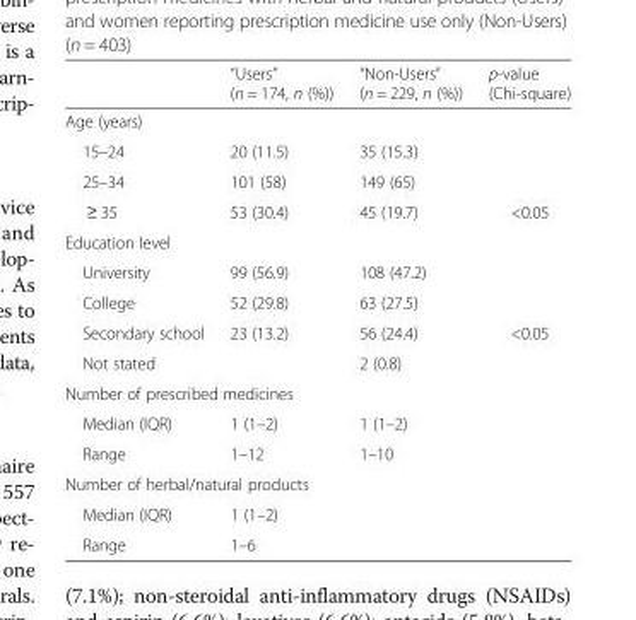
<table><thead><tr><td></td><td>“Users” (n = 174, n (%))</td><td>“Non-Users” (n = 229, n (%))</td><td>p-value (Chi-square)</td></tr></thead><tbody><tr><td colspan="4">Age (years)</td></tr><tr><td>15–24</td><td>20 (11.5)</td><td>35 (15.3)</td><td></td></tr><tr><td>25–34</td><td>101 (58)</td><td>149 (65)</td><td></td></tr><tr><td>≥ 35</td><td>53 (30.4)</td><td>45 (19.7)</td><td>&lt;0.05</td></tr><tr><td colspan="4">Education level</td></tr><tr><td>University</td><td>99 (56.9)</td><td>108 (47.2)</td><td></td></tr><tr><td>College</td><td>52 (29.8)</td><td>63 (27.5)</td><td></td></tr><tr><td>Secondary school</td><td>23 (13.2)</td><td>56 (24.4)</td><td>&lt;0.05</td></tr><tr><td>Not stated</td><td></td><td>2 (0.8)</td><td></td></tr><tr><td colspan="4">Number of prescribed medicines</td></tr><tr><td>Median (IQR)</td><td>1 (1–2)</td><td>1 (1–2)</td><td></td></tr><tr><td>Range</td><td>1–12</td><td>1–10</td><td></td></tr><tr><td colspan="4">Number of herbal/natural products</td></tr><tr><td>Median (IQR)</td><td>1 (1–2)</td><td></td><td></td></tr><tr><td>Range</td><td>1–6</td><td></td><td></td></tr></tbody></table>